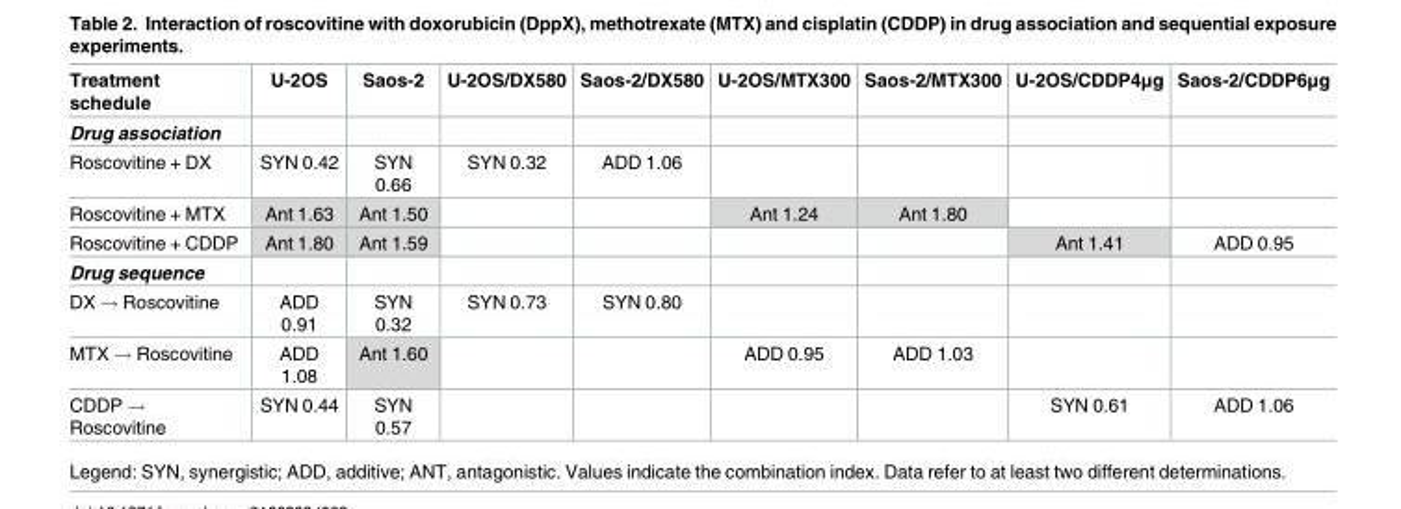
<table><thead><tr><td>Treatment schedule</td><td>U-2OS</td><td>Saos-2</td><td>U-2OS/DX580</td><td>Saos-2/DX580</td><td>U-2OS/MTX300</td><td>Saos-2/MTX300</td><td>U-2OS/CDDP4μg</td><td>Saos-2/CDDP6μg</td></tr></thead><tbody><tr><td colspan="9">Drug association</td></tr><tr><td>Roscovitine + DX</td><td>SYN 0.42</td><td>SYN 0.66</td><td>SYN 0.32</td><td>ADD 1.06</td><td></td><td></td><td></td><td></td></tr><tr><td>Roscovitine + MTX</td><td>Ant 1.63</td><td>Ant 1.50</td><td></td><td></td><td>Ant 1.24</td><td>Ant 1.80</td><td></td><td></td></tr><tr><td>Roscovitine + CDDP</td><td>Ant 1.80</td><td>Ant 1.59</td><td></td><td></td><td></td><td></td><td>Ant 1.41</td><td>ADD 0.95</td></tr><tr><td colspan="9">Drug sequence</td></tr><tr><td>DX → Roscovitine</td><td>ADD 0.91</td><td>SYN 0.32</td><td>SYN 0.73</td><td>SYN 0.80</td><td></td><td></td><td></td><td></td></tr><tr><td>MTX → Roscovitine</td><td>ADD 1.08</td><td>Ant 1.60</td><td></td><td></td><td>ADD 0.95</td><td>ADD 1.03</td><td></td><td></td></tr><tr><td>CDDP → Roscovitine</td><td>SYN 0.44</td><td>SYN 0.57</td><td></td><td></td><td></td><td></td><td>SYN 0.61</td><td>ADD 1.06</td></tr></tbody></table>